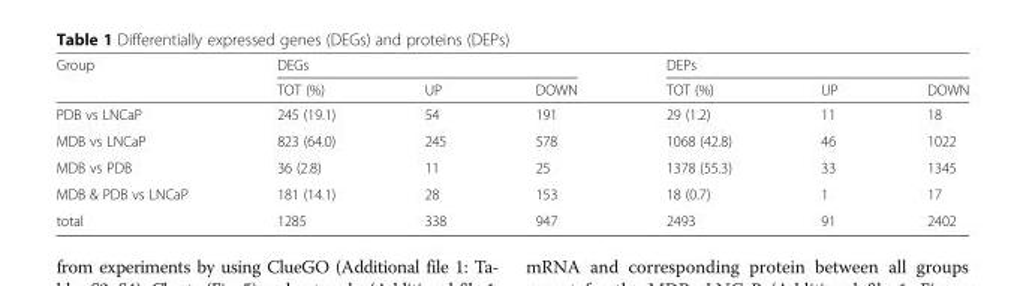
<table><thead><tr><td rowspan="2">Group</td><td colspan="3">DEGs</td><td colspan="3">DEPs</td></tr><tr><td>TOT (%)</td><td>UP</td><td>DOWN</td><td>TOT (%)</td><td>UP</td><td>DOWN</td></tr></thead><tbody><tr><td>PDB vs LNCaP</td><td>245 (19.1)</td><td>54</td><td>191</td><td>29 (1.2)</td><td>11</td><td>18</td></tr><tr><td>MDB vs LNCaP</td><td>823 (64.0)</td><td>245</td><td>578</td><td>1068 (42.8)</td><td>46</td><td>1022</td></tr><tr><td>MDB vs PDB</td><td>36 (2.8)</td><td>11</td><td>25</td><td>1378 (55.3)</td><td>33</td><td>1345</td></tr><tr><td>MDB &amp; PDB vs LNCaP</td><td>181 (14.1)</td><td>28</td><td>153</td><td>18 (0.7)</td><td>1</td><td>17</td></tr><tr><td>total</td><td>1285</td><td>338</td><td>947</td><td>2493</td><td>91</td><td>2402</td></tr></tbody></table>